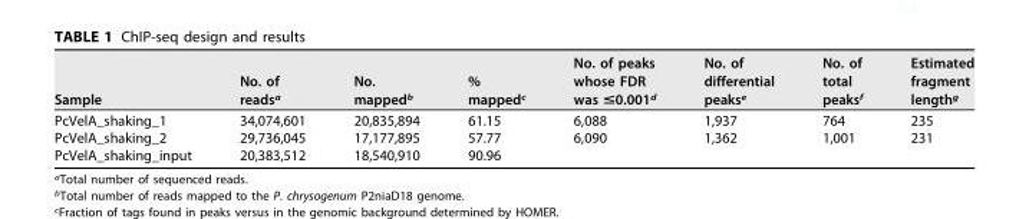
<table><thead><tr><td>Sample</td><td>No. of reads<sup>a</sup></td><td>No. mapped<sup>b</sup></td><td>% mapped<sup>c</sup></td><td>No. of peaks whose FDR was &lt;0.001d</td><td>No. of differential peaks<sup>e</sup></td><td>No. of total peaks<sup>f</sup></td><td>Estimated fragment length<sup>g</sup></td></tr></thead><tbody><tr><td>PcVelA_shaking_1</td><td>34,074,601</td><td>20,835,894</td><td>61.15</td><td>6,088</td><td>1,937</td><td>764</td><td>235</td></tr><tr><td>PcVelA_shaking_2</td><td>29,736,045</td><td>17,177,895</td><td>57.77</td><td>6,090</td><td>1,362</td><td>1,001</td><td>231</td></tr><tr><td>PcVelA_shaking_input</td><td>20,383,512</td><td>18,540,910</td><td>90.96</td><td></td><td></td><td></td><td></td></tr></tbody></table>